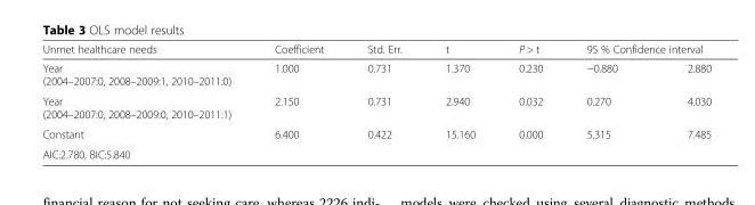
<table><thead><tr><td rowspan="2">Unmet healthcare needs Year (2004–2007:0, 2008–2009:1, 2010–2011:0)</td><td rowspan="2">Coefficient 1.000</td><td rowspan="2">Std. Err. 0.731</td><td rowspan="2">t 1.370</td><td rowspan="2">P &gt; t 0.230</td><td colspan="2">95 % Confidence interval</td></tr><tr><td>−0.880</td><td>2.880</td></tr></thead><tbody><tr><td>Year (2004–2007:0, 2008–2009:0, 2010–2011:1)</td><td>2.150</td><td>0.731</td><td>2.940</td><td>0.032</td><td>0.270</td><td>4.030</td></tr><tr><td>Constant</td><td>6.400</td><td>0.422</td><td>15.160</td><td>0.000</td><td>5.315</td><td>7.485</td></tr><tr><td colspan="7">AIC:2.780, BIC:5.840</td></tr></tbody></table>